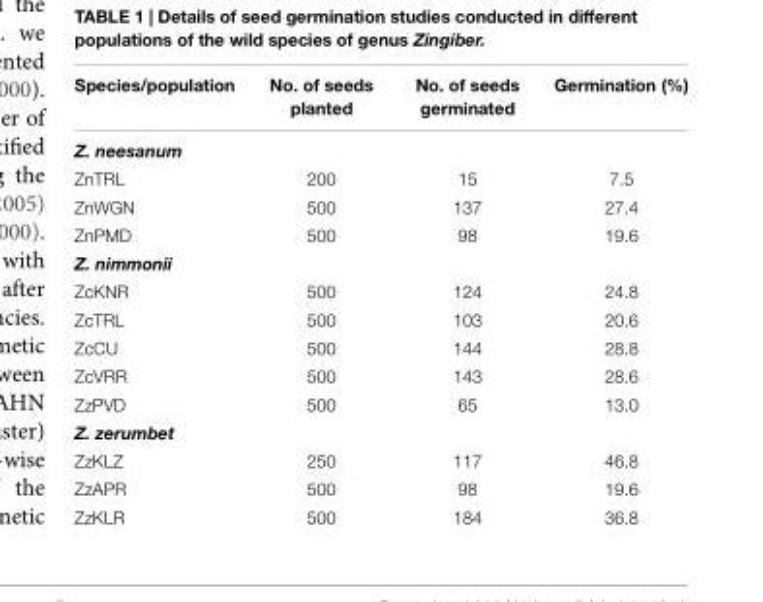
<table><thead><tr><td>Species/population</td><td>No. of seeds planted</td><td>No. of seeds germinated</td><td>Germination (%)</td></tr></thead><tbody><tr><td colspan="4">Z. neesanum</td></tr><tr><td>ZnTRL</td><td>200</td><td>15</td><td>7.5</td></tr><tr><td>ZnWGN</td><td>500</td><td>137</td><td>27.4</td></tr><tr><td>ZnPMD</td><td>500</td><td>98</td><td>19.6</td></tr><tr><td colspan="4">Z. nimmonii</td></tr><tr><td>ZcKNR</td><td>500</td><td>124</td><td>24.8</td></tr><tr><td>ZcTRL</td><td>500</td><td>103</td><td>20.6</td></tr><tr><td>ZcCU</td><td>500</td><td>144</td><td>28.8</td></tr><tr><td>ZcVRR</td><td>500</td><td>143</td><td>28.6</td></tr><tr><td>ZzPVD</td><td>500</td><td>65</td><td>13.0</td></tr><tr><td colspan="4">Z. zerumbet</td></tr><tr><td>ZzKLZ</td><td>250</td><td>117</td><td>46.8</td></tr><tr><td>ZzAPR</td><td>500</td><td>98</td><td>19.6</td></tr><tr><td>ZzKLR</td><td>500</td><td>184</td><td>36.8</td></tr></tbody></table>